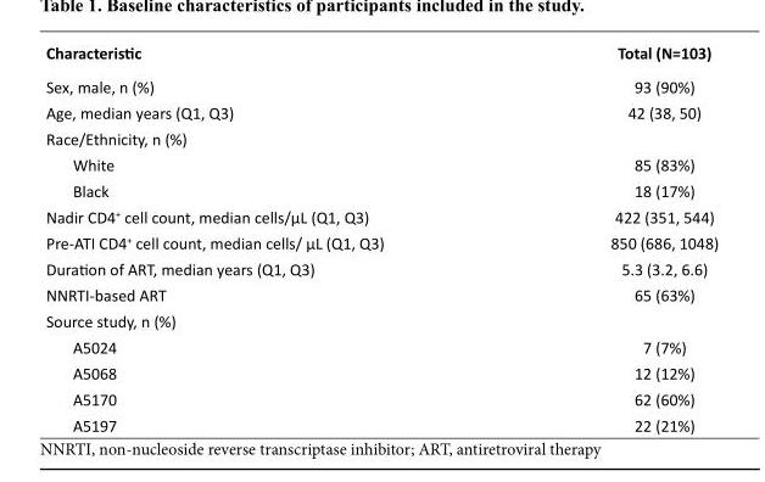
<table><thead><tr><td>Characteristic</td><td>Total (N=103)</td></tr></thead><tbody><tr><td>Sex, male, n (%)</td><td>93 (90%)</td></tr><tr><td>Age, median years (Q1, Q3)</td><td>42 (38, 50)</td></tr><tr><td colspan="2">Race/Ethnicity, n (%)</td></tr><tr><td>White</td><td>85 (83%)</td></tr><tr><td>Black</td><td>18 (17%)</td></tr><tr><td>Nadir CD4<sup>+</sup> cell count, median cells/µL (Q1, Q3)</td><td>422 (351, 544)</td></tr><tr><td>Pre-ATI CD4<sup>+</sup> cell count, median cells/ µL (Q1, Q3)</td><td>850 (686, 1048)</td></tr><tr><td>Duration of ART, median years (Q1, Q3)</td><td>5.3 (3.2, 6.6)</td></tr><tr><td>NNRTI-based ART</td><td>65 (63%)</td></tr><tr><td colspan="2">Source study, n (%)</td></tr><tr><td>A5024</td><td>7 (7%)</td></tr><tr><td>A5068</td><td>12 (12%)</td></tr><tr><td>A5170</td><td>62 (60%)</td></tr><tr><td>A5197</td><td>22 (21%)</td></tr></tbody></table>